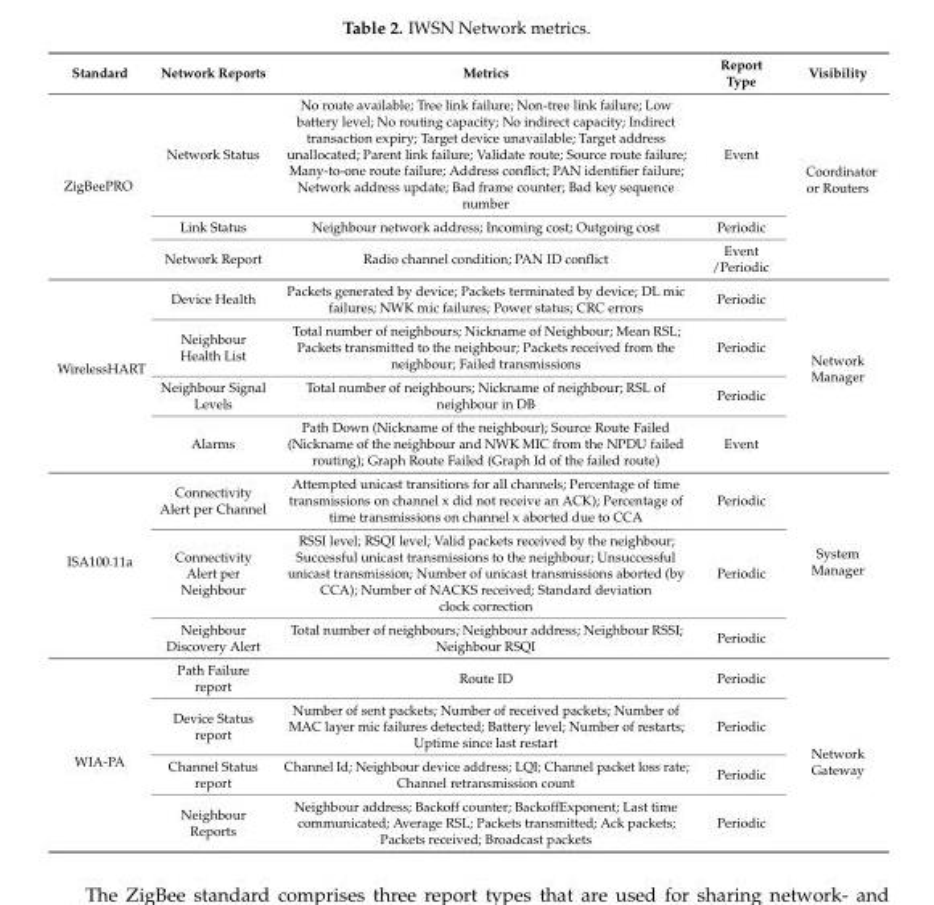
<table><thead><tr><td>Standard</td><td>Network Reports</td><td>Metrics</td><td>Report Type</td><td>Visibility</td></tr></thead><tbody><tr><td rowspan="3">ZigBeePRO</td><td>Network Status</td><td>No route available; Tree link failure; Non-tree link failure; Low battery level; No routing capacity; No indirect capacity; Indirect transaction expiry; Target device unavailable; Target address unallocated; Parent link failure; Validate route; Source route failure; Many-to-one route failure; Address conflict; PAN identifier failure; Network address update; Bad frame counter; Bad key sequence number</td><td>Event</td><td rowspan="3">Coordinator or Routers</td></tr><tr><td>Link Status</td><td>Neighbour network address; Incoming cost; Outgoing cost</td><td>Periodic</td></tr><tr><td>Network Report</td><td>Radio channel condition; PAN ID conflict</td><td>Event /Periodic</td></tr><tr><td rowspan="4">WirelessHART</td><td>Device Health</td><td>Packets generated by device; Packets terminated by device; DL mic failures; NWK mic failures; Power status; CRC errors</td><td>Periodic</td><td rowspan="4">Network Manager</td></tr><tr><td>Neighbour Health List</td><td>Total number of neighbours; Nickname of Neighbour; Mean RSL; Packets transmitted to the neighbour; Packets received from the neighbour; Failed transmissions</td><td>Periodic</td></tr><tr><td>Neighbour Signal Levels</td><td>Total number of neighbours; Nickname of neighbour; RSL of neighbour in DB</td><td>Periodic</td></tr><tr><td>Alarms</td><td>Path Down (Nickname of the neighbour); Source Route Failed (Nickname of the neighbour and NWK MIC from the NPDU failed routing); Graph Route Failed (Graph Id of the failed route)</td><td>Event</td></tr><tr><td rowspan="3">ISA100.11a</td><td>Connectivity Alert per Channel</td><td>Attempted unicast transitions for all channels; Percentage of time transmissions on channel x did not receive an ACK); Percentage of time transmissions on channel x aborted due to CCA</td><td>Periodic</td><td rowspan="3">System Manager</td></tr><tr><td>Connectivity Alert per Neighbour</td><td>RSSI level; RSQI level; Valid packets received by the neighbour; Successful unicast transmissions to the neighbour; Unsuccessful unicast transmission; Number of unicast transmissions aborted (by CCA); Number of NACKS received; Standard deviation clock correction</td><td>Periodic</td></tr><tr><td>Neighbour Discovery Alert</td><td>Total number of neighbours; Neighbour address; Neighbour RSSI; Neighbour RSQI</td><td>Periodic</td></tr><tr><td rowspan="4">WIA-PA</td><td>Path Failure report</td><td>Route ID</td><td>Periodic</td><td rowspan="4">Network Gateway</td></tr><tr><td>Device Status report</td><td>Number of sent packets; Number of received packets; Number of MAC layer mic failures detected; Battery level; Number of restarts; Uptime since last restart</td><td>Periodic</td></tr><tr><td>Channel Status report</td><td>Channel Id; Neighbour device address; LQI; Channel packet loss rate; Channel retransmission count</td><td>Periodic</td></tr><tr><td>Neighbour Reports</td><td>Neighbour address; Backoff counter; BackoffExponent; Last time communicated; Average RSL; Packets transmitted; Ack packets; Packets received; Broadcast packets</td><td>Periodic</td></tr></tbody></table>